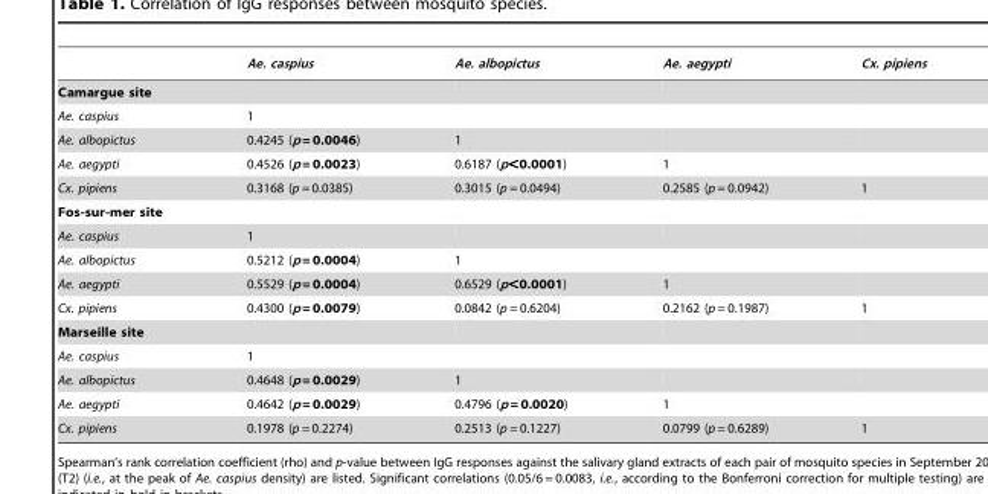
<table><thead><tr><td></td><td>Ae. caspius</td><td>Ae. albopictus</td><td>Ae. aegypti</td><td>Cx. pipiens</td></tr></thead><tbody><tr><td colspan="5">Camargue site</td></tr><tr><td>Ae. caspius</td><td>1</td><td></td><td></td><td></td></tr><tr><td>Ae. albopictus</td><td>0.4245 (p = 0.0046)</td><td>1</td><td></td><td></td></tr><tr><td>Ae. aegypti</td><td>0.4526 (p = 0.0023)</td><td>0.6187 (p&lt;0.0001)</td><td>1</td><td></td></tr><tr><td>Cx. pipiens</td><td>0.3168 (p = 0.0385)</td><td>0.3015 (p = 0.0494)</td><td>0.2585 (p = 0.0942)</td><td>1</td></tr><tr><td colspan="5">Fos-sur-mer site</td></tr><tr><td>Ae. caspius</td><td>1</td><td></td><td></td><td></td></tr><tr><td>Ae. albopictus</td><td>0.5212 (p = 0.0004)</td><td>1</td><td></td><td></td></tr><tr><td>Ae. aegypti</td><td>0.5529 (p = 0.0004)</td><td>0.6529 (p&lt;0.0001)</td><td>1</td><td></td></tr><tr><td>Cx. pipiens</td><td>0.4300 (p = 0.0079)</td><td>0.0842 (p = 0.6204)</td><td>0.2162 (p = 0.1987)</td><td>1</td></tr><tr><td colspan="5">Marseille site</td></tr><tr><td>Ae. caspius</td><td>1</td><td></td><td></td><td></td></tr><tr><td>Ae. albopictus</td><td>0.4648 (p = 0.0029)</td><td>1</td><td></td><td></td></tr><tr><td>Ae. aegypti</td><td>0.4642 (p = 0.0029)</td><td>0.4796 (p = 0.0020)</td><td>1</td><td></td></tr><tr><td>Cx. pipiens</td><td>0.1978 (p = 0.2274)</td><td>0.2513 (p = 0.1227)</td><td>0.0799 (p = 0.6289)</td><td>1</td></tr></tbody></table>